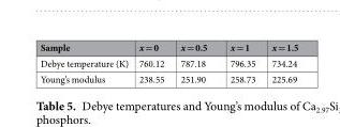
<table><thead><tr><td>Sample</td><td>x = 0</td><td>x = 0.5</td><td>x = 1</td><td>x = 1.5</td></tr></thead><tbody><tr><td>Debye temperature (K)</td><td>760.12</td><td>787.18</td><td>796.35</td><td>734.24</td></tr><tr><td>Young’s modulus</td><td>238.55</td><td>251.90</td><td>258.73</td><td>225.69</td></tr></tbody></table>